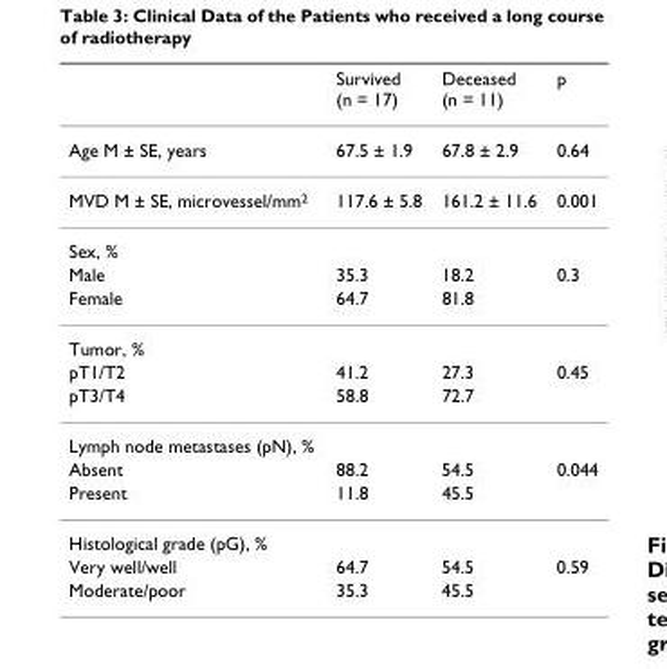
<table><thead><tr><td></td><td>Survived (n = 17)</td><td>Deceased (n = 11)</td><td>p</td></tr></thead><tbody><tr><td>Age M ± SE, years</td><td>67.5 ± 1.9</td><td>67.8 ± 2.9</td><td>0.64</td></tr><tr><td>MVD M ± SE, microvessel/mm<sup>2</sup></td><td>117.6 ± 5.8</td><td>161.2 ± 11.6</td><td>0.001</td></tr><tr><td colspan="4">Sex, %</td></tr><tr><td>Male</td><td>35.3</td><td>18.2</td><td>0.3</td></tr><tr><td>Female</td><td>64.7</td><td>81.8</td><td></td></tr><tr><td colspan="4">Tumor, %</td></tr><tr><td>pT1/T2</td><td>41.2</td><td>27.3</td><td>0.45</td></tr><tr><td>pT3/T4</td><td>58.8</td><td>72.7</td><td></td></tr><tr><td colspan="4">Lymph node metastases (pN), %</td></tr><tr><td>Absent</td><td>88.2</td><td>54.5</td><td>0.044</td></tr><tr><td>Present</td><td>11.8</td><td>45.5</td><td></td></tr><tr><td colspan="4">Histological grade (pG), %</td></tr><tr><td>Very well/well</td><td>64.7</td><td>54.5</td><td>0.59</td></tr><tr><td>Moderate/poor</td><td>35.3</td><td>45.5</td><td></td></tr></tbody></table>